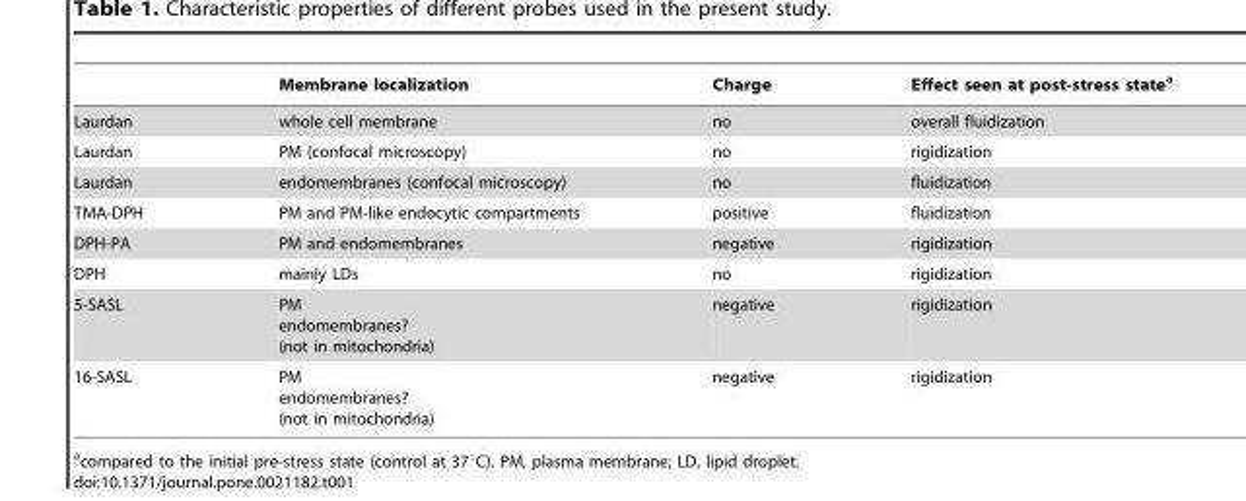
<table><thead><tr><td></td><td>Membrane localization</td><td>Charge</td><td>Effect seen at post-stress state<sup>a</sup></td></tr></thead><tbody><tr><td>Laurdan</td><td>whole cell membrane</td><td>no</td><td>overall fluidization</td></tr><tr><td>Laurdan</td><td>PM (confocal microscopy)</td><td>no</td><td>rigidization</td></tr><tr><td>Laurdan</td><td>endomembranes (confocal microscopy)</td><td>no</td><td>fluidization</td></tr><tr><td>TMA-DPH</td><td>PM and PM-like endocytic compartments</td><td>positive</td><td>fluidization</td></tr><tr><td>DPH-PA</td><td>PM and endomembranes</td><td>negative</td><td>rigidization</td></tr><tr><td>DPH</td><td>mainly LDs</td><td>no</td><td>rigidization</td></tr><tr><td>5-SASL</td><td>PM endomembranes? (not in mitochondria)</td><td>negative</td><td>rigidization</td></tr><tr><td>16-SASL</td><td>PM endomembranes? (not in mitochondria)</td><td>negative</td><td>rigidization</td></tr></tbody></table>